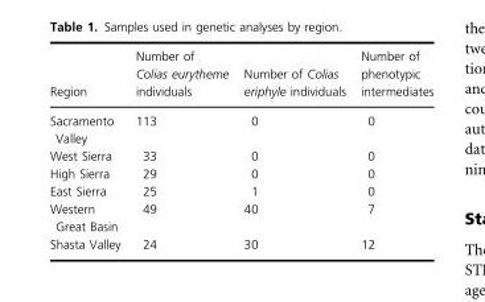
<table><thead><tr><td>Region</td><td>Number of Colias eurytheme individuals</td><td>Number of Colias eriphyle individuals</td><td>Number of phenotypic intermediates</td></tr></thead><tbody><tr><td>Sacramento Valley</td><td>113</td><td>0</td><td>0</td></tr><tr><td>West Sierra</td><td>33</td><td>0</td><td>0</td></tr><tr><td>High Sierra</td><td>29</td><td>0</td><td>0</td></tr><tr><td>East Sierra</td><td>25</td><td>1</td><td>0</td></tr><tr><td>Western Great Basin</td><td>49</td><td>40</td><td>7</td></tr><tr><td>Shasta Valley</td><td>24</td><td>30</td><td>12</td></tr></tbody></table>